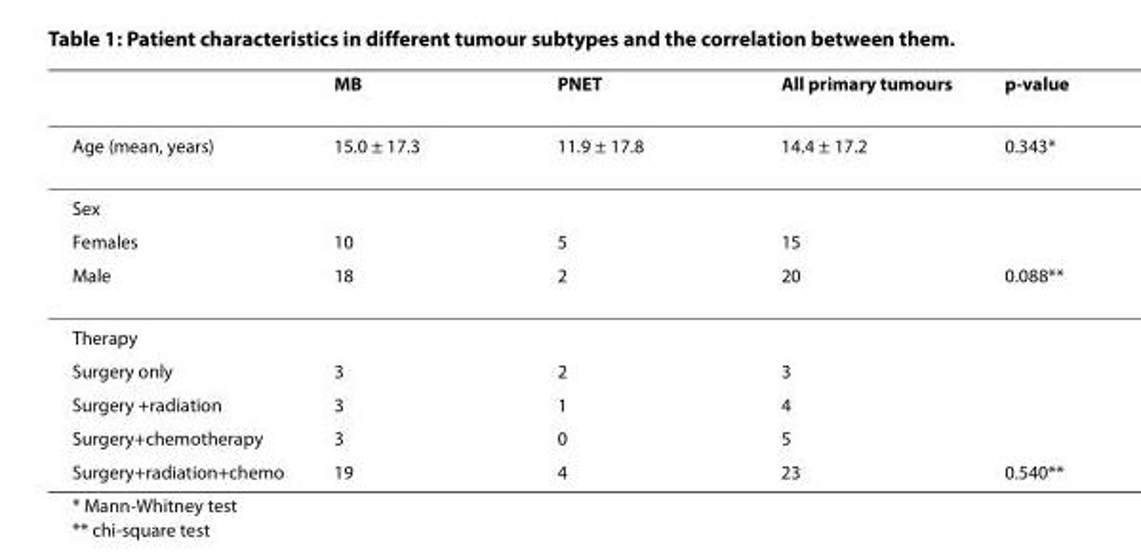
<table><thead><tr><td></td><td>MB</td><td>PNET</td><td>All primary tumours</td><td>p-value</td></tr></thead><tbody><tr><td>Age (mean, years)</td><td>15.0 ± 17.3</td><td>11.9 ± 17.8</td><td>14.4 ± 17.2</td><td>0.343*</td></tr><tr><td colspan="5">Sex</td></tr><tr><td>Females</td><td>10</td><td>5</td><td>15</td><td></td></tr><tr><td>Male</td><td>18</td><td>2</td><td>20</td><td>0.088**</td></tr><tr><td colspan="5">Therapy</td></tr><tr><td>Surgery only</td><td>3</td><td>2</td><td>3</td><td></td></tr><tr><td>Surgery +radiation</td><td>3</td><td>1</td><td>4</td><td></td></tr><tr><td>Surgery+chemotherapy</td><td>3</td><td>0</td><td>5</td><td></td></tr><tr><td>Surgery+radiation+chemo</td><td>19</td><td>4</td><td>23</td><td>0.540**</td></tr></tbody></table>